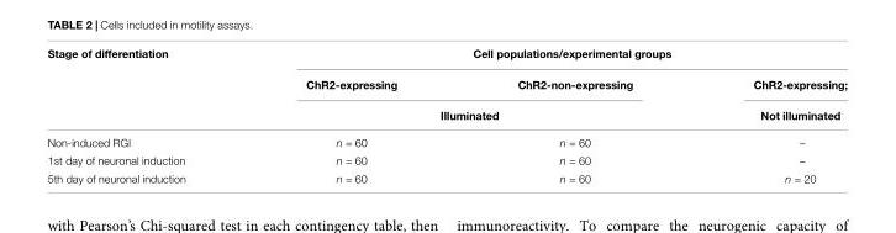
<table><thead><tr><td rowspan="3">Stage of differentiation</td><td colspan="3">Cell populations/experimental groups</td></tr><tr><td>ChR2-expressing</td><td>ChR2-non-expressing</td><td rowspan="2">ChR2-expressing; Not illuminated</td></tr><tr><td colspan="2">Illuminated</td></tr></thead><tbody><tr><td>Non-induced RGl</td><td>n = 60</td><td>n = 60</td><td>–</td></tr><tr><td>1st day of neuronal induction</td><td>n = 60</td><td>n = 60</td><td>–</td></tr><tr><td>5th day of neuronal induction</td><td>n = 60</td><td>n = 60</td><td>n = 20</td></tr></tbody></table>